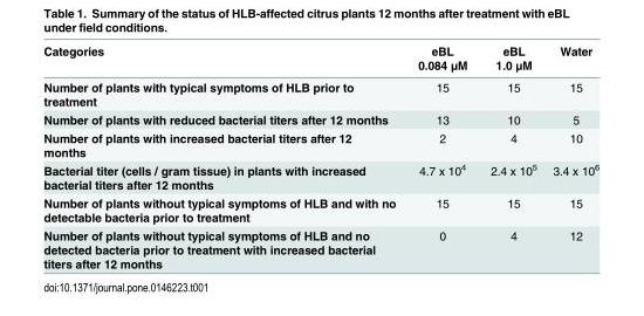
<table><thead><tr><td>Categories</td><td>eBL 0.084 μM</td><td>eBL 1.0 μM</td><td>Water</td></tr></thead><tbody><tr><td>Number of plants with typical symptoms of HLB prior to treatment</td><td>15</td><td>15</td><td>15</td></tr><tr><td>Number of plants with reduced bacterial titers after 12 months</td><td>13</td><td>10</td><td>5</td></tr><tr><td>Number of plants with increased bacterial titers after 12 months</td><td>2</td><td>4</td><td>10</td></tr><tr><td>Bacterial titer (cells / gram tissue) in plants with increased bacterial titers after 12 months</td><td>4.7 x 10<sup>4</sup></td><td>2.4 x 10<sup>5</sup></td><td>3.4 x 10<sup>6</sup></td></tr><tr><td>Number of plants without typical symptoms of HLB and with no detectable bacteria prior to treatment</td><td>15</td><td>15</td><td>15</td></tr><tr><td>Number of plants without typical symptoms of HLB and no detected bacteria prior to treatment with increased bacterial titers after 12 months</td><td>0</td><td>4</td><td>12</td></tr></tbody></table>